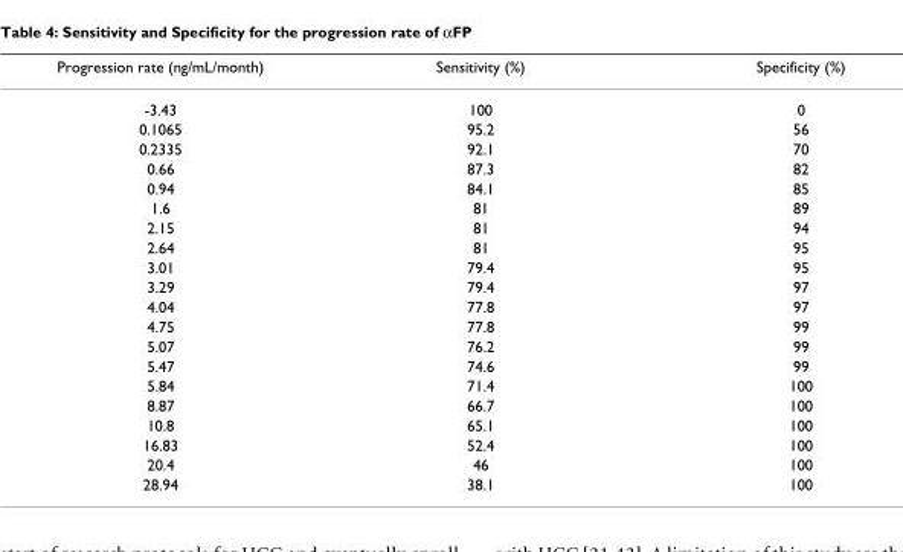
<table><thead><tr><td>Progression rate (ng/mL/month)</td><td>Sensitivity (%)</td><td>Specificity (%)</td></tr></thead><tbody><tr><td>-3.43</td><td>100</td><td>0</td></tr><tr><td>0.1065</td><td>95.2</td><td>56</td></tr><tr><td>0.2335</td><td>92.1</td><td>70</td></tr><tr><td>0.66</td><td>87.3</td><td>82</td></tr><tr><td>0.94</td><td>84.1</td><td>85</td></tr><tr><td>1.6</td><td>81</td><td>89</td></tr><tr><td>2.15</td><td>81</td><td>94</td></tr><tr><td>2.64</td><td>81</td><td>95</td></tr><tr><td>3.01</td><td>79.4</td><td>95</td></tr><tr><td>3.29</td><td>79.4</td><td>97</td></tr><tr><td>4.04</td><td>77.8</td><td>97</td></tr><tr><td>4.75</td><td>77.8</td><td>99</td></tr><tr><td>5.07</td><td>76.2</td><td>99</td></tr><tr><td>5.47</td><td>74.6</td><td>99</td></tr><tr><td>5.84</td><td>71.4</td><td>100</td></tr><tr><td>8.87</td><td>66.7</td><td>100</td></tr><tr><td>10.8</td><td>65.1</td><td>100</td></tr><tr><td>16.83</td><td>52.4</td><td>100</td></tr><tr><td>20.4</td><td>46</td><td>100</td></tr><tr><td>28.94</td><td>38.1</td><td>100</td></tr></tbody></table>